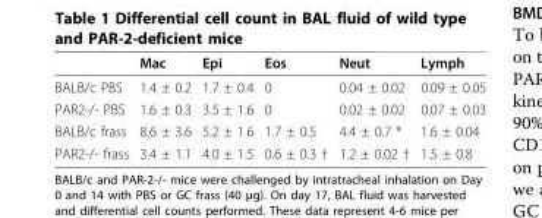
<table><thead><tr><td></td><td>Mac</td><td>Epi</td><td>Eos</td><td>Neut</td><td>Lymph</td></tr></thead><tbody><tr><td>BALB/c PBS</td><td>1.4 ± 0.2</td><td>1.7 ± 0.4</td><td>0</td><td>0.04 ± 0.02</td><td>0.09 ± 0.05</td></tr><tr><td>PAR2-/- PBS</td><td>1.6 ± 0.3</td><td>3.5 ± 1.6</td><td>0</td><td>0.02 ± 0.02</td><td>0.07 ± 0.03</td></tr><tr><td>BALB/c frass</td><td>8.6 ± 3.6</td><td>5.2 ± 1.6</td><td>1.7 ± 0.5</td><td>4.4 ± 0.7 *</td><td>1.6 ± 0.04</td></tr><tr><td>PAR2-/- frass</td><td>3.4 ± 1.1</td><td>4.0 ± 1.5</td><td>0.6 ± 0.3 †</td><td>1.2 ± 0.02 †</td><td>1.5 ± 0.8</td></tr></tbody></table>